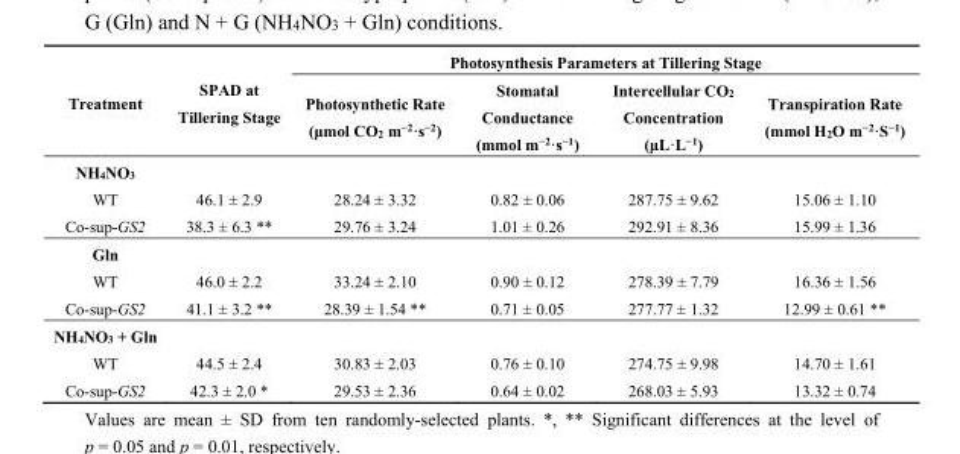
<table><thead><tr><td rowspan="2">Treatment</td><td rowspan="2">SPAD at Tillering Stage</td><td colspan="4">Photosynthesis Parameters at Tillering Stage</td></tr><tr><td>Photosynthetic Rate (μmol CO<sub>2</sub> m<sup>−2</sup>·s<sup>−2</sup>)</td><td>Stomatal Conductance (mmol m<sup>−2</sup>·s<sup>−1</sup>)</td><td>Intercellular CO<sub>2</sub> Concentration (μL·L<sup>−1</sup>)</td><td>Transpiration Rate (mmol H<sub>2</sub>O m<sup>−2</sup>·S<sup>−1</sup>)</td></tr></thead><tbody><tr><td colspan="6">NH<sub>4</sub>NO<sub>3</sub></td></tr><tr><td>WT</td><td>46.1 ± 2.9</td><td>28.24 ± 3.32</td><td>0.82 ± 0.06</td><td>287.75 ± 9.62</td><td>15.06 ± 1.10</td></tr><tr><td>Co-sup-GS2</td><td>38.3 ± 6.3 **</td><td>29.76 ± 3.24</td><td>1.01 ± 0.26</td><td>292.91 ± 8.36</td><td>15.99 ± 1.36</td></tr><tr><td colspan="6">Gln</td></tr><tr><td>WT</td><td>46.0 ± 2.2</td><td>33.24 ± 2.10</td><td>0.90 ± 0.12</td><td>278.39 ± 7.79</td><td>16.36 ± 1.56</td></tr><tr><td>Co-sup-GS2</td><td>41.1 ± 3.2 **</td><td>28.39 ± 1.54 **</td><td>0.71 ± 0.05</td><td>277.77 ± 1.32</td><td>12.99 ± 0.61 **</td></tr><tr><td colspan="6">NH<sub>4</sub>NO<sub>3</sub> + Gln</td></tr><tr><td>WT</td><td>44.5 ± 2.4</td><td>30.83 ± 2.03</td><td>0.76 ± 0.10</td><td>274.75 ± 9.98</td><td>14.70 ± 1.61</td></tr><tr><td>Co-sup-GS2</td><td>42.3 ± 2.0 *</td><td>29.53 ± 2.36</td><td>0.64 ± 0.02</td><td>268.03 ± 5.93</td><td>13.32 ± 0.74</td></tr></tbody></table>